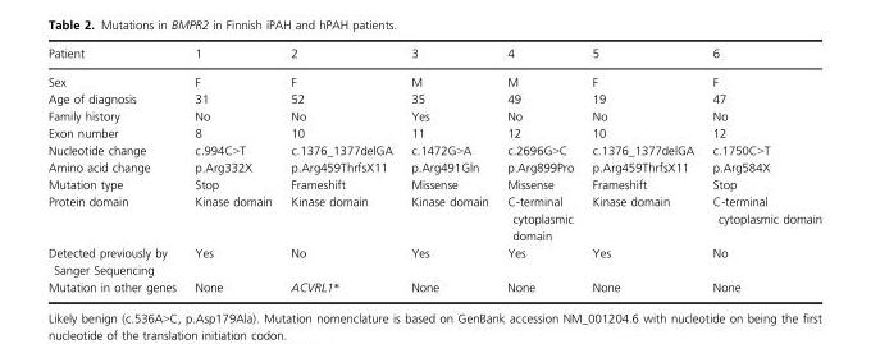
<table><thead><tr><td>Patient</td><td>1</td><td>2</td><td>3</td><td>4</td><td>5</td><td>6</td></tr></thead><tbody><tr><td>Sex</td><td>F</td><td>F</td><td>M</td><td>M</td><td>F</td><td>F</td></tr><tr><td>Age of diagnosis</td><td>31</td><td>52</td><td>35</td><td>49</td><td>19</td><td>47</td></tr><tr><td>Family history</td><td>No</td><td>No</td><td>Yes</td><td>No</td><td>No</td><td>No</td></tr><tr><td>Exon number</td><td>8</td><td>10</td><td>11</td><td>12</td><td>10</td><td>12</td></tr><tr><td>Nucleotide change</td><td>c.994C&gt;T</td><td>c.1376_1377delGA</td><td>c.1472G&gt;A</td><td>c.2696G&gt;C</td><td>c.1376_1377delGA</td><td>c.1750C&gt;T</td></tr><tr><td>Amino acid change</td><td>p.Arg332X</td><td>p.Arg459ThrfsX11</td><td>p.Arg491Gln</td><td>p.Arg899Pro</td><td>p.Arg459ThrfsX11</td><td>p.Arg584X</td></tr><tr><td>Mutation type</td><td>Stop</td><td>Frameshift</td><td>Missense</td><td>Missense</td><td>Frameshift</td><td>Stop</td></tr><tr><td>Protein domain</td><td>Kinase domain</td><td>Kinase domain</td><td>Kinase domain</td><td>C-terminal cytoplasmic domain</td><td>Kinase domain</td><td>C-terminal cytoplasmic domain</td></tr><tr><td>Detected previously by Sanger Sequencing</td><td>Yes</td><td>No</td><td>Yes</td><td>Yes</td><td>Yes</td><td>No</td></tr><tr><td>Mutation in other genes</td><td>None</td><td>ACVRL1*</td><td>None</td><td>None</td><td>None</td><td>None</td></tr></tbody></table>